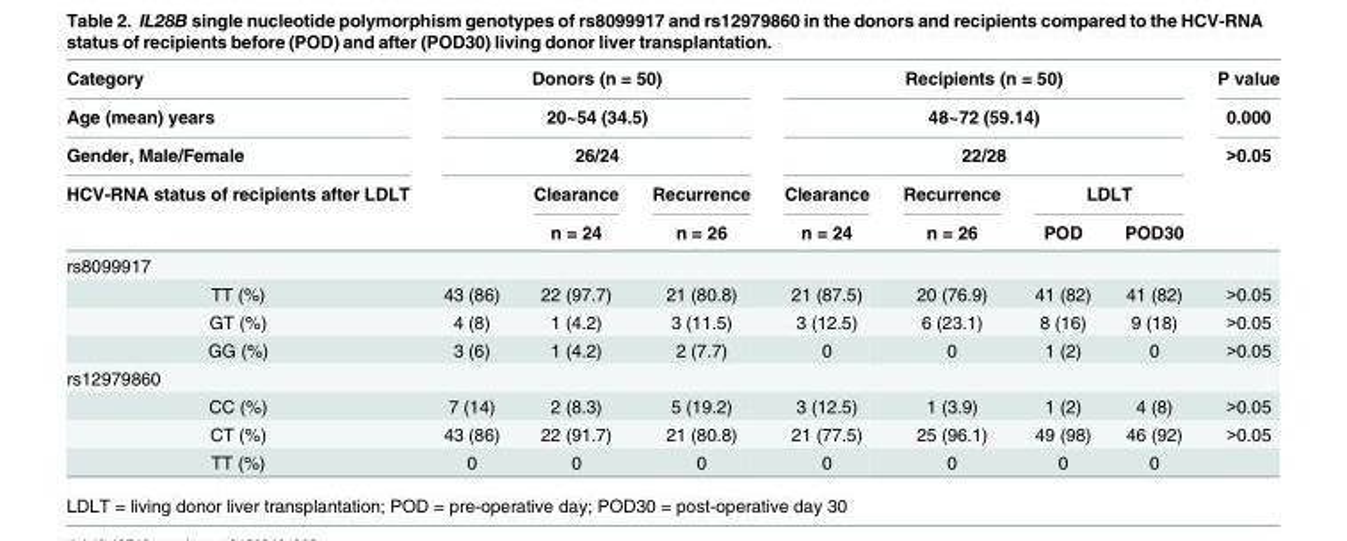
<table><thead><tr><td rowspan="5">Category Age (mean) years Gender, Male/Female HCV-RNA status of recipients after LDLT</td><td rowspan="3" colspan="3">Donors (n = 50) 20~54 (34.5) 26/24</td><td rowspan="3" colspan="4">Recipients (n = 50) 48~72 (59.14) 22/28</td><td rowspan="5">P value 0.000 &gt;0.05</td></tr><tr></tr><tr></tr><tr><td rowspan="2"></td><td rowspan="2">Clearance n = 24</td><td rowspan="2">Recurrence n = 26</td><td rowspan="2">Clearance n = 24</td><td rowspan="2">Recurrence n = 26</td><td colspan="2">LDLT</td></tr><tr><td>POD</td><td>POD30</td></tr></thead><tbody><tr><td colspan="9">rs8099917</td></tr><tr><td>TT (%)</td><td>43 (86)</td><td>22 (97.7)</td><td>21 (80.8)</td><td>21 (87.5)</td><td>20 (76.9)</td><td>41 (82)</td><td>41 (82)</td><td>&gt;0.05</td></tr><tr><td>GT (%)</td><td>4 (8)</td><td>1 (4.2)</td><td>3 (11.5)</td><td>3 (12.5)</td><td>6 (23.1)</td><td>8 (16)</td><td>9 (18)</td><td>&gt;0.05</td></tr><tr><td>GG (%)</td><td>3 (6)</td><td>1 (4.2)</td><td>2 (7.7)</td><td>0</td><td>0</td><td>1 (2)</td><td>0</td><td>&gt;0.05</td></tr><tr><td colspan="9">rs12979860</td></tr><tr><td>CC (%)</td><td>7 (14)</td><td>2 (8.3)</td><td>5 (19.2)</td><td>3 (12.5)</td><td>1 (3.9)</td><td>1 (2)</td><td>4 (8)</td><td>&gt;0.05</td></tr><tr><td>CT (%)</td><td>43 (86)</td><td>22 (91.7)</td><td>21 (80.8)</td><td>21 (77.5)</td><td>25 (96.1)</td><td>49 (98)</td><td>46 (92)</td><td>&gt;0.05</td></tr><tr><td>TT (%)</td><td>0</td><td>0</td><td>0</td><td>0</td><td>0</td><td>0</td><td>0</td><td></td></tr></tbody></table>